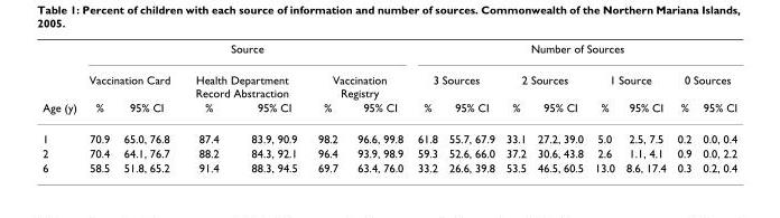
<table><thead><tr><td rowspan="3">Age (y)</td><td colspan="6">Source</td><td colspan="8">Number of Sources</td></tr><tr><td colspan="2">Vaccination Card</td><td colspan="2">Health Department Record Abstraction</td><td colspan="2">Vaccination Registry</td><td colspan="2">3 Sources</td><td colspan="2">2 Sources</td><td colspan="2">1 Source</td><td colspan="2">0 Sources</td></tr><tr><td>%</td><td>95% CI</td><td>%</td><td>95% CI</td><td>%</td><td>95% CI</td><td>%</td><td>95% CI</td><td>%</td><td>95% CI</td><td>%</td><td>95% CI</td><td>%</td><td>95% CI</td></tr></thead><tbody><tr><td>1</td><td>70.9</td><td>65.0, 76.8</td><td>87.4</td><td>83.9, 90.9</td><td>98.2</td><td>96.6, 99.8</td><td>61.8</td><td>55.7, 67.9</td><td>33.1</td><td>27.2, 39.0</td><td>5.0</td><td>2.5, 7.5</td><td>0.2</td><td>0.0, 0.4</td></tr><tr><td>2</td><td>70.4</td><td>64.1, 76.7</td><td>88.2</td><td>84.3, 92.1</td><td>96.4</td><td>93.9, 98.9</td><td>59.3</td><td>52.6, 66.0</td><td>37.2</td><td>30.6, 43.8</td><td>2.6</td><td>1.1, 4.1</td><td>0.9</td><td>0.0, 2.2</td></tr><tr><td>6</td><td>58.5</td><td>51.8, 65.2</td><td>91.4</td><td>88.3, 94.5</td><td>69.7</td><td>63.4, 76.0</td><td>33.2</td><td>26.6, 39.8</td><td>53.5</td><td>46.5, 60.5</td><td>13.0</td><td>8.6, 17.4</td><td>0.3</td><td>0.2, 0.4</td></tr></tbody></table>